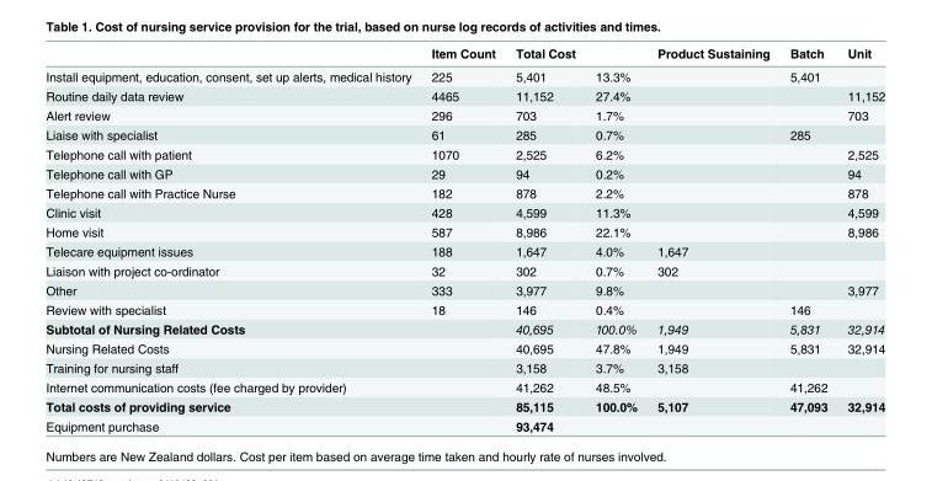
<table><thead><tr><td></td><td>Item Count</td><td>Total Cost</td><td></td><td>Product Sustaining</td><td>Batch</td><td>Unit</td></tr></thead><tbody><tr><td>Install equipment, education, consent, set up alerts, medical history</td><td>225</td><td>5,401</td><td>13.3%</td><td></td><td>5,401</td><td></td></tr><tr><td>Routine daily data review</td><td>4465</td><td>11,152</td><td>27.4%</td><td></td><td></td><td>11,152</td></tr><tr><td>Alert review</td><td>296</td><td>703</td><td>1.7%</td><td></td><td></td><td>703</td></tr><tr><td>Liaise with specialist</td><td>61</td><td>285</td><td>0.7%</td><td></td><td>285</td><td></td></tr><tr><td>Telephone call with patient</td><td>1070</td><td>2,525</td><td>6.2%</td><td></td><td></td><td>2,525</td></tr><tr><td>Telephone call with GP</td><td>29</td><td>94</td><td>0.2%</td><td></td><td></td><td>94</td></tr><tr><td>Telephone call with Practice Nurse</td><td>182</td><td>878</td><td>2.2%</td><td></td><td></td><td>878</td></tr><tr><td>Clinic visit</td><td>428</td><td>4,599</td><td>11.3%</td><td></td><td></td><td>4,599</td></tr><tr><td>Home visit</td><td>587</td><td>8,986</td><td>22.1%</td><td></td><td></td><td>8,986</td></tr><tr><td>Telecare equipment issues</td><td>188</td><td>1,647</td><td>4.0%</td><td>1,647</td><td></td><td></td></tr><tr><td>Liaison with project co-ordinator</td><td>32</td><td>302</td><td>0.7%</td><td>302</td><td></td><td></td></tr><tr><td>Other</td><td>333</td><td>3,977</td><td>9.8%</td><td></td><td></td><td>3,977</td></tr><tr><td>Review with specialist</td><td>18</td><td>146</td><td>0.4%</td><td></td><td>146</td><td></td></tr><tr><td>Subtotal of Nursing Related Costs</td><td></td><td>40,695</td><td>100.0%</td><td>1,949</td><td>5,831</td><td>32,914</td></tr><tr><td>Nursing Related Costs</td><td></td><td>40,695</td><td>47.8%</td><td>1,949</td><td>5,831</td><td>32,914</td></tr><tr><td>Training for nursing staff</td><td></td><td>3,158</td><td>3.7%</td><td>3,158</td><td></td><td></td></tr><tr><td>Internet communication costs (fee charged by provider)</td><td></td><td>41,262</td><td>48.5%</td><td></td><td>41,262</td><td></td></tr><tr><td>Total costs of providing service</td><td></td><td>85,115</td><td>100.0%</td><td>5,107</td><td>47,093</td><td>32,914</td></tr><tr><td>Equipment purchase</td><td></td><td>93,474</td><td></td><td></td><td></td><td></td></tr></tbody></table>